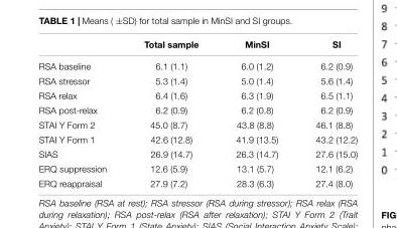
<table><thead><tr><td></td><td>Total sample</td><td>MinSI</td><td>SI</td></tr></thead><tbody><tr><td>RSA baseline</td><td>6.1 (1.1)</td><td>6.0 (1.2)</td><td>6.2 (0.9)</td></tr><tr><td>RSA stressor</td><td>5.3 (1.4)</td><td>5.0 (1.4)</td><td>5.6 (1.4)</td></tr><tr><td>RSA relax</td><td>6.4 (1.6)</td><td>6.3 (1.9)</td><td>6.5 (1.1)</td></tr><tr><td>RSA post-relax</td><td>6.2 (0.9)</td><td>6.2 (0.8)</td><td>6.2 (0.9)</td></tr><tr><td>STAI Y Form 2</td><td>45.0 (8.7)</td><td>43.8 (8.8)</td><td>46.1 (8.8)</td></tr><tr><td>STAI Y Form 1</td><td>42.6 (12.8)</td><td>41.9 (13.5)</td><td>43.2 (12.2)</td></tr><tr><td>SIAS</td><td>26.9 (14.7)</td><td>26.3 (14.7)</td><td>27.6 (15.0)</td></tr><tr><td>ERQ suppression</td><td>12.6 (5.9)</td><td>13.1 (5.7)</td><td>12.1 (6.2)</td></tr><tr><td>ERQ reappraisal</td><td>27.9 (7.2)</td><td>28.3 (6.3)</td><td>27.4 (8.0)</td></tr></tbody></table>